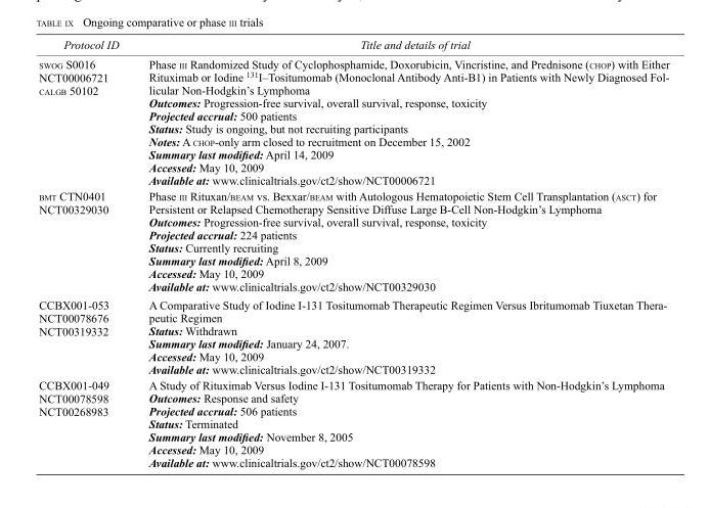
<table><thead><tr><td>Protocol ID</td><td>Title and details of trial</td></tr></thead><tbody><tr><td rowspan="8">swog S0016 NCT00006721 calgb 50102</td><td>Phase iii Randomized Study of Cyclophosphamide, Doxorubicin, Vincristine, and Prednisone (chop) with Either Rituximab or Iodine 131I–Tositumomab (Monoclonal Antibody Anti-B1) in Patients with Newly Diagnosed Fol- licular Non-Hodgkin’s Lymphoma</td></tr><tr><td>Outcomes: Progression-free survival, overall survival, response, toxicity</td></tr><tr><td>Projected accrual: 500 patients</td></tr><tr><td>Status: Study is ongoing, but not recruiting participants</td></tr><tr><td>Notes: A chop-only arm closed to recruitment on December 15, 2002</td></tr><tr><td>Summary last modified: April 14, 2009</td></tr><tr><td>Accessed: May 10, 2009</td></tr><tr><td>Available at: www.clinicaltrials.gov/ct2/show/NCT00006721</td></tr><tr><td rowspan="7">bmt CTN0401 NCT00329030</td><td>Phase iii Rituxan/beam vs. Bexxar/beam with Autologous Hematopoietic Stem Cell Transplantation (asct) for Persistent or Relapsed Chemotherapy Sensitive Diffuse Large B-Cell Non-Hodgkin’s Lymphoma</td></tr><tr><td>Outcomes: Progression-free survival, overall survival, response, toxicity</td></tr><tr><td>Projected accrual: 224 patients</td></tr><tr><td>Status: Currently recruiting</td></tr><tr><td>Summary last modified: April 8, 2009</td></tr><tr><td>Accessed: May 10, 2009</td></tr><tr><td>Available at: www.clinicaltrials.gov/ct2/show/NCT00329030</td></tr><tr><td rowspan="5">CCBX001-053 NCT00078676 NCT00319332</td><td>A Comparative Study of Iodine I-131 Tositumomab Therapeutic Regimen Versus Ibritumomab Tiuxetan Thera- peutic Regimen</td></tr><tr><td>Status: Withdrawn</td></tr><tr><td>Summary last modified: January 24, 2007.</td></tr><tr><td>Accessed: May 10, 2009</td></tr><tr><td>Available at: www.clinicaltrials.gov/ct2/show/NCT00319332</td></tr><tr><td rowspan="7">CCBX001-049 NCT00078598 NCT00268983</td><td>A Study of Rituximab Versus Iodine I-131 Tositumomab Therapy for Patients with Non-Hodgkin’s Lymphoma</td></tr><tr><td>Outcomes: Response and safety</td></tr><tr><td>Projected accrual: 506 patients</td></tr><tr><td>Status: Terminated</td></tr><tr><td>Summary last modified: November 8, 2005</td></tr><tr><td>Accessed: May 10, 2009</td></tr><tr><td>Available at: www.clinicaltrials.gov/ct2/show/NCT00078598</td></tr></tbody></table>